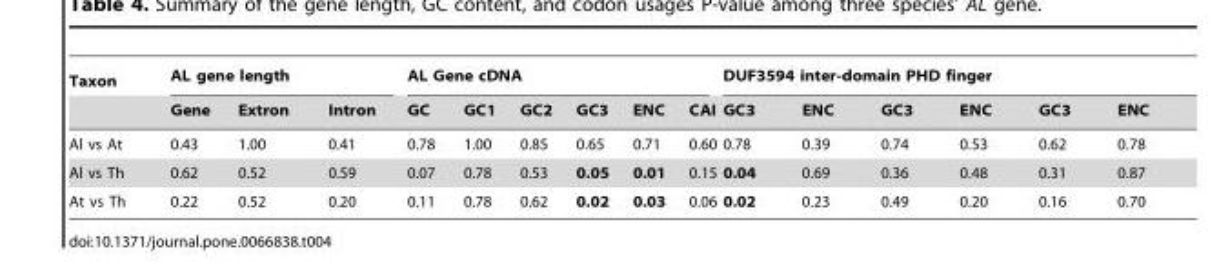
<table><thead><tr><td rowspan="2">Taxon</td><td colspan="3">AL gene length</td><td colspan="6">AL Gene cDNA</td><td colspan="6">DUF3594 inter-domain PHD finger</td></tr><tr><td>Gene</td><td>Extron</td><td>Intron</td><td>GC</td><td>GC1</td><td>GC2</td><td>GC3</td><td>ENC</td><td>CAI</td><td>GC3</td><td>ENC</td><td>GC3</td><td>ENC</td><td>GC3</td><td>ENC</td></tr></thead><tbody><tr><td>Al vs At</td><td>0.43</td><td>1.00</td><td>0.41</td><td>0.78</td><td>1.00</td><td>0.85</td><td>0.65</td><td>0.71</td><td>0.60</td><td>0.78</td><td>0.39</td><td>0.74</td><td>0.53</td><td>0.62</td><td>0.78</td></tr><tr><td>Al vs Th</td><td>0.62</td><td>0.52</td><td>0.59</td><td>0.07</td><td>0.78</td><td>0.53</td><td>0.05</td><td>0.01</td><td>0.15</td><td>0.04</td><td>0.69</td><td>0.36</td><td>0.48</td><td>0.31</td><td>0.87</td></tr><tr><td>At vs Th</td><td>0.22</td><td>0.52</td><td>0.20</td><td>0.11</td><td>0.78</td><td>0.62</td><td>0.02</td><td>0.03</td><td>0.06</td><td>0.02</td><td>0.23</td><td>0.49</td><td>0.20</td><td>0.16</td><td>0.70</td></tr></tbody></table>